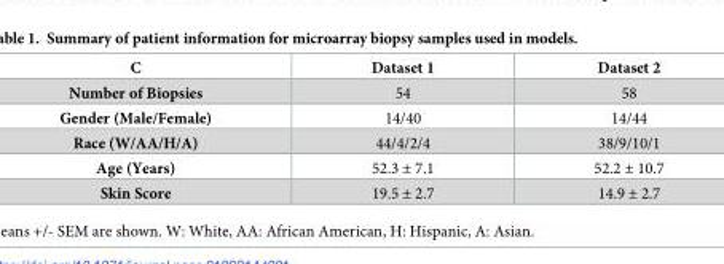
<table><thead><tr><td>C</td><td>Dataset 1</td><td>Dataset 2</td></tr></thead><tbody><tr><td>Number of Biopsies</td><td>54</td><td>58</td></tr><tr><td>Gender (Male/Female)</td><td>14/40</td><td>14/44</td></tr><tr><td>Race (W/AA/H/A)</td><td>44/4/2/4</td><td>38/9/10/1</td></tr><tr><td>Age (Years)</td><td>52.3 ± 7.1</td><td>52.2 ± 10.7</td></tr><tr><td>Skin Score</td><td>19.5 ± 2.7</td><td>14.9 ± 2.7</td></tr></tbody></table>